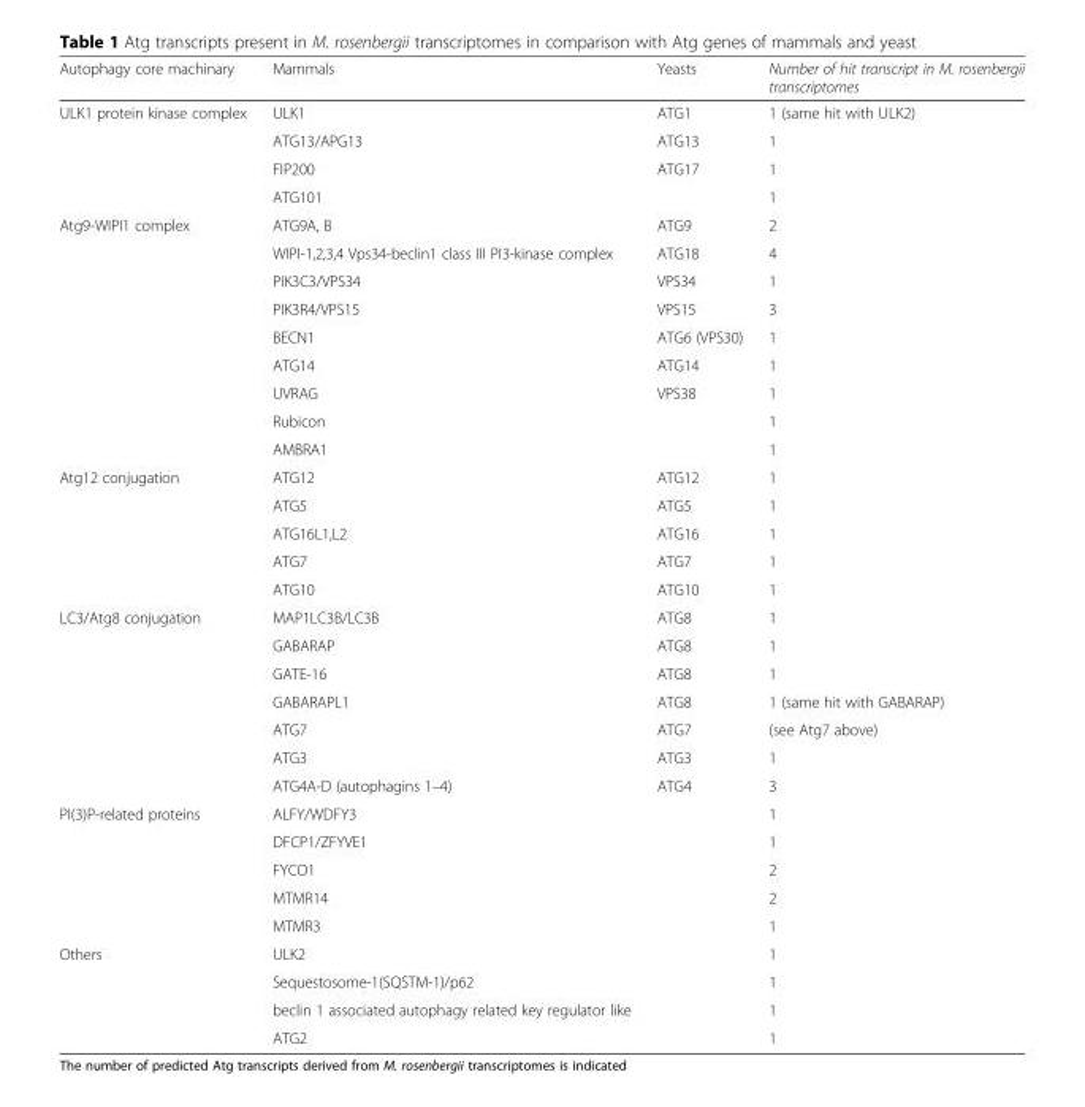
<table><thead><tr><td>Autophagy core machinary</td><td>Mammals</td><td>Yeasts</td><td>Number of hit transcript in M. rosenbergii transcriptomes</td></tr></thead><tbody><tr><td rowspan="4">ULK1 protein kinase complex</td><td>ULK1</td><td>ATG1</td><td>1 (same hit with ULK2)</td></tr><tr><td>ATG13/APG13</td><td>ATG13</td><td>1</td></tr><tr><td>FIP200</td><td>ATG17</td><td>1</td></tr><tr><td>ATG101</td><td></td><td>1</td></tr><tr><td rowspan="9">Atg9-WIPI1 complex</td><td>ATG9A, B</td><td>ATG9</td><td>2</td></tr><tr><td>WIPI-1,2,3,4 Vps34-beclin1 class III PI3-kinase complex</td><td>ATG18</td><td>4</td></tr><tr><td>PIK3C3/VPS34</td><td>VPS34</td><td>1</td></tr><tr><td>PIK3R4/VPS15</td><td>VPS15</td><td>3</td></tr><tr><td>BECN1</td><td>ATG6 (VPS30)</td><td>1</td></tr><tr><td>ATG14</td><td>ATG14</td><td>1</td></tr><tr><td>UVRAG</td><td>VPS38</td><td>1</td></tr><tr><td>Rubicon</td><td></td><td>1</td></tr><tr><td>AMBRA1</td><td></td><td>1</td></tr><tr><td rowspan="5">Atg12 conjugation</td><td>ATG12</td><td>ATG12</td><td>1</td></tr><tr><td>ATG5</td><td>ATG5</td><td>1</td></tr><tr><td>ATG16L1,L2</td><td>ATG16</td><td>1</td></tr><tr><td>ATG7</td><td>ATG7</td><td>1</td></tr><tr><td>ATG10</td><td>ATG10</td><td>1</td></tr><tr><td rowspan="7">LC3/Atg8 conjugation</td><td>MAP1LC3B/LC3B</td><td>ATG8</td><td>1</td></tr><tr><td>GABARAP</td><td>ATG8</td><td>1</td></tr><tr><td>GATE-16</td><td>ATG8</td><td>1</td></tr><tr><td>GABARAPL1</td><td>ATG8</td><td>1 (same hit with GABARAP)</td></tr><tr><td>ATG7</td><td>ATG7</td><td>(see Atg7 above)</td></tr><tr><td>ATG3</td><td>ATG3</td><td>1</td></tr><tr><td>ATG4A-D (autophagins 1–4)</td><td>ATG4</td><td>3</td></tr><tr><td rowspan="5">PI(3)P-related proteins</td><td>ALFY/WDFY3</td><td></td><td>1</td></tr><tr><td>DFCP1/ZFYVE1</td><td></td><td>1</td></tr><tr><td>FYCO1</td><td></td><td>2</td></tr><tr><td>MTMR14</td><td></td><td>2</td></tr><tr><td>MTMR3</td><td></td><td>1</td></tr><tr><td rowspan="4">Others</td><td>ULK2</td><td></td><td>1</td></tr><tr><td>Sequestosome-1(SQSTM-1)/p62</td><td></td><td>1</td></tr><tr><td>beclin 1 associated autophagy related key regulator like</td><td></td><td>1</td></tr><tr><td>ATG2</td><td></td><td>1</td></tr></tbody></table>